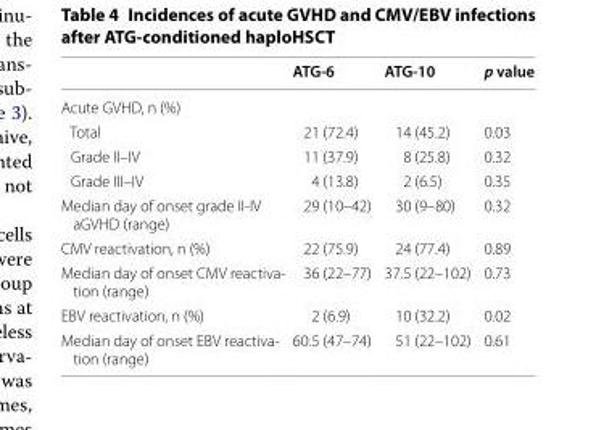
<table><thead><tr><td></td><td>ATG-6</td><td>ATG-10</td><td>p value</td></tr></thead><tbody><tr><td colspan="4">Acute GVHD, n (%)</td></tr><tr><td>Total</td><td>21 (72.4)</td><td>14 (45.2)</td><td>0.03</td></tr><tr><td>Grade II–IV</td><td>11 (37.9)</td><td>8 (25.8)</td><td>0.32</td></tr><tr><td>Grade III–IV</td><td>4 (13.8)</td><td>2 (6.5)</td><td>0.35</td></tr><tr><td>Median day of onset grade II‑IV aGVHD (range)</td><td>29 (10–42)</td><td>30 (9–80)</td><td>0.32</td></tr><tr><td>CMV reactivation, n (%)</td><td>22 (75.9)</td><td>24 (77.4)</td><td>0.89</td></tr><tr><td>Median day of onset CMV reactiva‑ tion (range)</td><td>36 (22–77)</td><td>37.5 (22–102)</td><td>0.73</td></tr><tr><td>EBV reactivation, n (%)</td><td>2 (6.9)</td><td>10 (32.2)</td><td>0.02</td></tr><tr><td>Median day of onset EBV reactiva‑ tion (range)</td><td>60.5 (47–74)</td><td>51 (22–102)</td><td>0.61</td></tr></tbody></table>